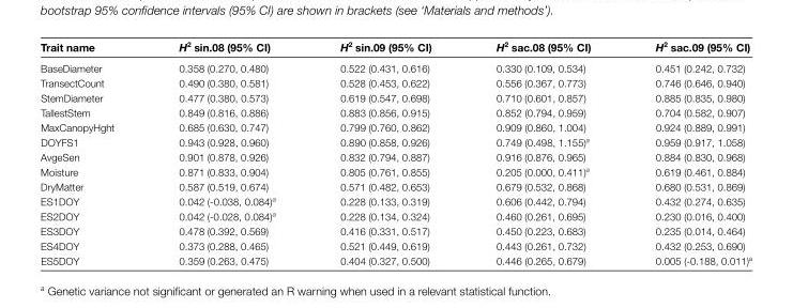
<table><thead><tr><td>Trait name</td><td>H<sup>2</sup> sin.08 (95% CI)</td><td>H<sup>2</sup> sin.09 (95% CI)</td><td>H<sup>2</sup> sac.08 (95% CI)</td><td>H<sup>2</sup> sac.09 (95% CI)</td></tr></thead><tbody><tr><td>BaseDiameter</td><td>0.358 (0.270, 0.480)</td><td>0.522 (0.431, 0.616)</td><td>0.330 (0.109, 0.534)</td><td>0.451 (0.242, 0.732)</td></tr><tr><td>TransectCount</td><td>0.490 (0.380, 0.581)</td><td>0.528 (0.453, 0.622)</td><td>0.556 (0.367, 0.773)</td><td>0.746 (0.646, 0.940)</td></tr><tr><td>StemDiameter</td><td>0.477 (0.380, 0.573)</td><td>0.619 (0.547, 0.698)</td><td>0.710 (0.601, 0.857)</td><td>0.885 (0.835, 0.980)</td></tr><tr><td>TallestStem</td><td>0.849 (0.816, 0.886)</td><td>0.883 (0.856, 0.915)</td><td>0.852 (0.794, 0.959)</td><td>0.704 (0.582, 0.907)</td></tr><tr><td>MaxCanopyHght</td><td>0.685 (0.630, 0.747)</td><td>0.799 (0.760, 0.862)</td><td>0.909 (0.860, 1.004)</td><td>0.924 (0.889, 0.991)</td></tr><tr><td>DOYFS1</td><td>0.943 (0.928, 0.960)</td><td>0.890 (0.858, 0.926)</td><td>0.749 (0.498, 1.155)<sup>a</sup></td><td>0.959 (0.917, 1.058)</td></tr><tr><td>AvgeSen</td><td>0.901 (0.878, 0.926)</td><td>0.832 (0.794, 0.887)</td><td>0.916 (0.876, 0.965)</td><td>0.884 (0.830, 0.968)</td></tr><tr><td>Moisture</td><td>0.871 (0.833, 0.904)</td><td>0.805 (0.761, 0.855)</td><td>0.205 (0.000, 0.411)<sup>a</sup></td><td>0.619 (0.461, 0.884)</td></tr><tr><td>DryMatter</td><td>0.587 (0.519, 0.674)</td><td>0.571 (0.482, 0.653)</td><td>0.679 (0.532, 0.868)</td><td>0.680 (0.531, 0.869)</td></tr><tr><td>ES1DOY</td><td>0.042 (-0.038, 0.084)<sup>a</sup></td><td>0.228 (0.133, 0.319)</td><td>0.606 (0.442, 0.794)</td><td>0.432 (0.274, 0.635)</td></tr><tr><td>ES2DOY</td><td>0.042 (-0.028, 0.084)<sup>a</sup></td><td>0.228 (0.134, 0.324)</td><td>0.460 (0.261, 0.695)</td><td>0.230 (0.016, 0.400)</td></tr><tr><td>ES3DOY</td><td>0.478 (0.392, 0.569)</td><td>0.416 (0.331, 0.517)</td><td>0.450 (0.223, 0.683)</td><td>0.235 (0.014, 0.464)</td></tr><tr><td>ES4DOY</td><td>0.373 (0.288, 0.465)</td><td>0.521 (0.449, 0.619)</td><td>0.443 (0.261, 0.732)</td><td>0.432 (0.253, 0.690)</td></tr><tr><td>ES5DOY</td><td>0.359 (0.263, 0.475)</td><td>0.404 (0.327, 0.500)</td><td>0.446 (0.265, 0.679)</td><td>0.005 (-0.188, 0.011)<sup>a</sup></td></tr></tbody></table>